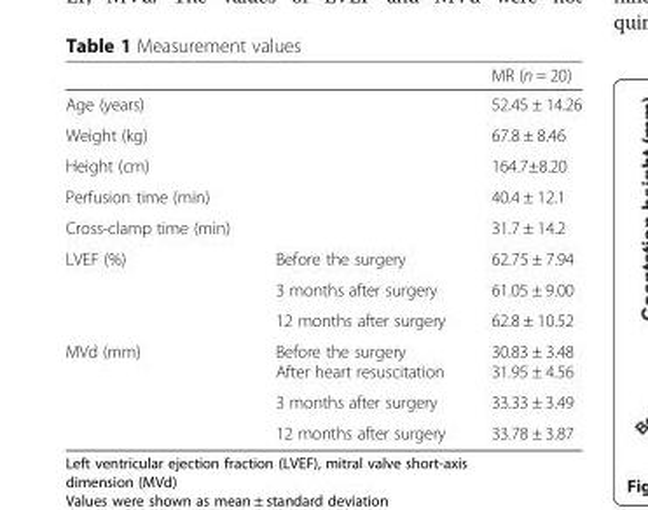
<table><thead><tr><td></td><td></td><td>MR (n = 20)</td></tr></thead><tbody><tr><td>Age (years)</td><td></td><td>52.45 ± 14.26</td></tr><tr><td>Weight (kg)</td><td></td><td>67.8 ± 8.46</td></tr><tr><td>Height (cm)</td><td></td><td>164.7±8.20</td></tr><tr><td>Perfusion time (min)</td><td></td><td>40.4 ± 12.1</td></tr><tr><td>Cross-clamp time (min)</td><td></td><td>31.7 ± 14.2</td></tr><tr><td rowspan="3">LVEF (%)</td><td>Before the surgery</td><td>62.75 ± 7.94</td></tr><tr><td>3 months after surgery</td><td>61.05 ± 9.00</td></tr><tr><td>12 months after surgery</td><td>62.8 ± 10.52</td></tr><tr><td rowspan="3">MVd (mm)</td><td>Before the surgery After heart resuscitation</td><td>30.83 ± 3.48 31.95 ± 4.56</td></tr><tr><td>3 months after surgery</td><td>33.33 ± 3.49</td></tr><tr><td>12 months after surgery</td><td>33.78 ± 3.87</td></tr></tbody></table>